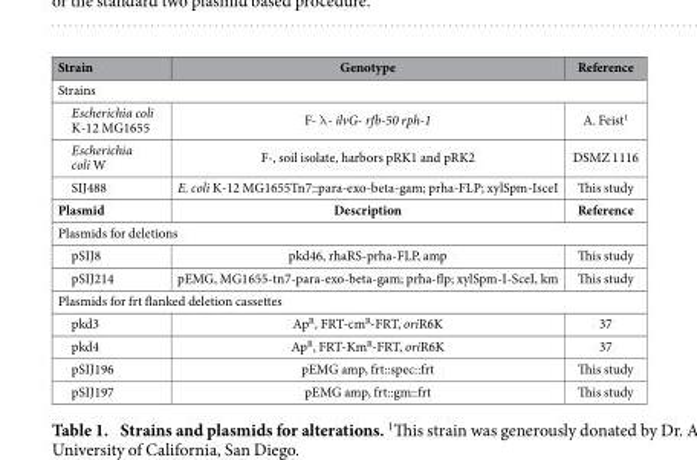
<table><thead><tr><td>Strain</td><td>Genotype</td><td>Reference</td></tr></thead><tbody><tr><td colspan="3">Strains</td></tr><tr><td>Escherichia coli K-12 MG1655</td><td>F- λ - ilvG- rfb-50 rph-1</td><td>A. Feist<sup>1</sup></td></tr><tr><td>Escherichia coli W</td><td>F-, soil isolate, harbors pRK1 and pRK2</td><td>DSMZ 1116</td></tr><tr><td>SIJ488</td><td>E. coli K-12 MG1655Tn7::para-exo-beta-gam; prha-FLP; xylSpm-IsceI</td><td>This study</td></tr><tr><td>Plasmid</td><td>Description</td><td>Reference</td></tr><tr><td colspan="3">Plasmids for deletions</td></tr><tr><td>pSIJ8</td><td>pkd46, rhaRS-prha-FLP, amp</td><td>This study</td></tr><tr><td>pSIJ214</td><td>pEMG, MG1655-tn7-para-exo-beta-gam; prha-flp; xylSpm-I-SceI, km</td><td>This study</td></tr><tr><td colspan="3">Plasmids for frt flanked deletion cassettes</td></tr><tr><td>pkd3</td><td>Ap<sup>R</sup>, FRT-cm<sup>R</sup>-FRT, oriR6K</td><td>37</td></tr><tr><td>pkd4</td><td>Ap<sup>R</sup>, FRT-Km<sup>R</sup>-FRT, oriR6K</td><td>37</td></tr><tr><td>pSIJ196</td><td>pEMG amp, frt::spec::frt</td><td>This study</td></tr><tr><td>pSIJ197</td><td>pEMG amp, frt::gm::frt</td><td>This study</td></tr></tbody></table>